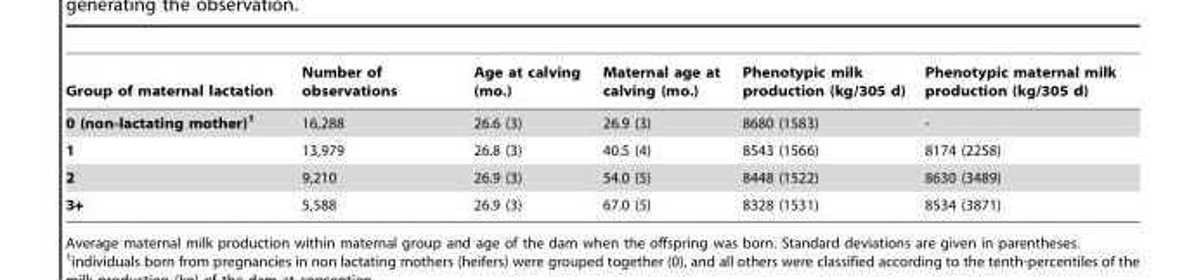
<table><thead><tr><td>Group of maternal lactation</td><td>Number of observations</td><td>Age at calving (mo.)</td><td>Maternal age at calving (mo.)</td><td>Phenotypic milk production (kg/305 d)</td><td>Phenotypic maternal milk production (kg/305 d)</td></tr></thead><tbody><tr><td>0 (non-lactating mother)1</td><td>16,288</td><td>26.6 (3)</td><td>26.9 (3)</td><td>8680 (1583)</td><td>-</td></tr><tr><td>1</td><td>13,979</td><td>26.8 (3)</td><td>40.5 (4)</td><td>8543 (1566)</td><td>8174 (2258)</td></tr><tr><td>2</td><td>9,210</td><td>26.9 (3)</td><td>54.0 (5)</td><td>8448 (1522)</td><td>8630 (3489)</td></tr><tr><td>3+</td><td>5,588</td><td>26.9 (3)</td><td>67.0 (5)</td><td>8328 (1531)</td><td>8534 (3871)</td></tr></tbody></table>